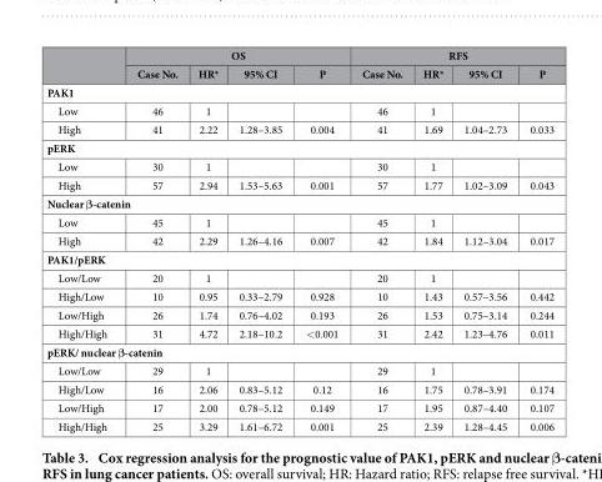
<table><thead><tr><td rowspan="2"></td><td colspan="4">OS</td><td colspan="4">RFS</td></tr><tr><td>Case No.</td><td>HR*</td><td>95% CI</td><td>P</td><td>Case No.</td><td>HR*</td><td>95% CI</td><td>P</td></tr></thead><tbody><tr><td colspan="9">PAK1</td></tr><tr><td>Low</td><td>46</td><td>1</td><td></td><td></td><td>46</td><td>1</td><td></td><td></td></tr><tr><td>High</td><td>41</td><td>2.22</td><td>1.28–3.85</td><td>0.004</td><td>41</td><td>1.69</td><td>1.04–2.73</td><td>0.033</td></tr><tr><td colspan="9">pERK</td></tr><tr><td>Low</td><td>30</td><td>1</td><td></td><td></td><td>30</td><td>1</td><td></td><td></td></tr><tr><td>High</td><td>57</td><td>2.94</td><td>1.53–5.63</td><td>0.001</td><td>57</td><td>1.77</td><td>1.02–3.09</td><td>0.043</td></tr><tr><td colspan="9">Nuclear β-catenin</td></tr><tr><td>Low</td><td>45</td><td>1</td><td></td><td></td><td>45</td><td>1</td><td></td><td></td></tr><tr><td>High</td><td>42</td><td>2.29</td><td>1.26–4.16</td><td>0.007</td><td>42</td><td>1.84</td><td>1.12–3.04</td><td>0.017</td></tr><tr><td colspan="9">PAK1/pERK</td></tr><tr><td>Low/Low</td><td>20</td><td>1</td><td></td><td></td><td>20</td><td>1</td><td></td><td></td></tr><tr><td>High/Low</td><td>10</td><td>0.95</td><td>0.33–2.79</td><td>0.928</td><td>10</td><td>1.43</td><td>0.57–3.56</td><td>0.442</td></tr><tr><td>Low/High</td><td>26</td><td>1.74</td><td>0.76–4.02</td><td>0.193</td><td>26</td><td>1.53</td><td>0.75–3.14</td><td>0.244</td></tr><tr><td>High/High</td><td>31</td><td>4.72</td><td>2.18–10.2</td><td>&lt; 0.001</td><td>31</td><td>2.42</td><td>1.23–4.76</td><td>0.011</td></tr><tr><td colspan="9">pERK/ nuclear β-catenin</td></tr><tr><td>Low/Low</td><td>29</td><td>1</td><td></td><td></td><td>29</td><td>1</td><td></td><td></td></tr><tr><td>High/Low</td><td>16</td><td>2.06</td><td>0.83–5.12</td><td>0.12</td><td>16</td><td>1.75</td><td>0.78–3.91</td><td>0.174</td></tr><tr><td>Low/High</td><td>17</td><td>2.00</td><td>0.78–5.12</td><td>0.149</td><td>17</td><td>1.95</td><td>0.87–4.40</td><td>0.107</td></tr><tr><td>High/High</td><td>25</td><td>3.29</td><td>1.61–6.72</td><td>0.001</td><td>25</td><td>2.39</td><td>1.28–4.45</td><td>0.006</td></tr></tbody></table>